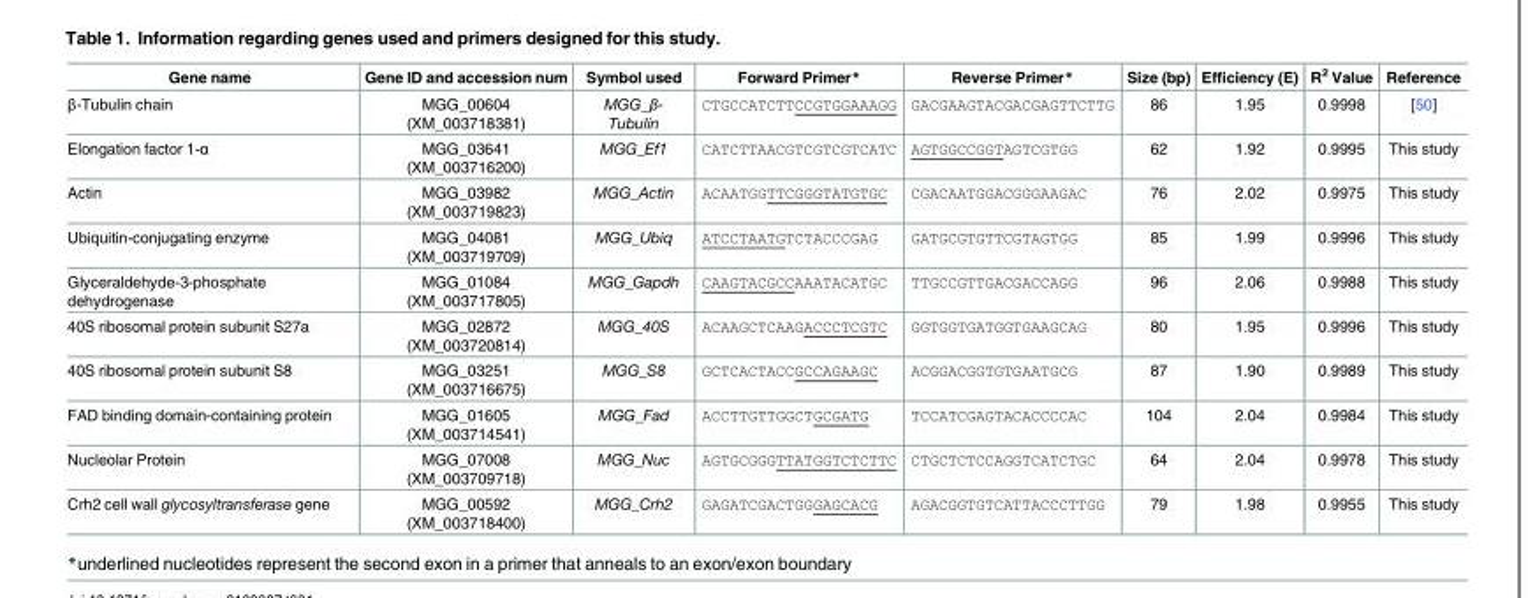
<table><thead><tr><td>Gene name</td><td>Gene ID and accession num</td><td>Symbol used</td><td>Forward Primer*</td><td>Reverse Primer*</td><td>Size (bp)</td><td>Efficiency (E)</td><td>R<sup>2</sup> Value</td><td>Reference</td></tr></thead><tbody><tr><td>β-Tubulin chain</td><td>MGG_00604 (XM_003718381)</td><td>MGG_β- Tubulin</td><td>CTGCCATCTTCCGTGGAAAGG</td><td>GACGAAGTACGACGAGTTCTTG</td><td>86</td><td>1.95</td><td>0.9998</td><td>[50]</td></tr><tr><td>Elongation factor 1-α</td><td>MGG_03641 (XM_003716200)</td><td>MGG_Ef1</td><td>CATCTTAACGTCGTCGTCATC</td><td>AGTGGCCGGTAGTCGTGG</td><td>62</td><td>1.92</td><td>0.9995</td><td>This study</td></tr><tr><td>Actin</td><td>MGG_03982 (XM_003719823)</td><td>MGG_Actin</td><td>ACAATGGTTCGGGTATGTGC</td><td>CGACAATGGACGGGAAGAC</td><td>76</td><td>2.02</td><td>0.9975</td><td>This study</td></tr><tr><td>Ubiquitin-conjugating enzyme</td><td>MGG_04081 (XM_003719709)</td><td>MGG_Ubiq</td><td>ATCCTAATGTCTACCCGAG</td><td>GATGCGTGTTCGTAGTGG</td><td>85</td><td>1.99</td><td>0.9996</td><td>This study</td></tr><tr><td>Glyceraldehyde-3-phosphate dehydrogenase</td><td>MGG_01084 (XM_003717805)</td><td>MGG_Gapdh</td><td>CAAGTACGCCAAATACATGC</td><td>TTGCCGTTGACGACCAGG</td><td>96</td><td>2.06</td><td>0.9988</td><td>This study</td></tr><tr><td>40S ribosomal protein subunit S27a</td><td>MGG_02872 (XM_003720814)</td><td>MGG_40S</td><td>ACAAGCTCAAGACCCTCGTC</td><td>GGTGGTGATGGTGAAGCAG</td><td>80</td><td>1.95</td><td>0.9996</td><td>This study</td></tr><tr><td>40S ribosomal protein subunit S8</td><td>MGG_03251 (XM_003716675)</td><td>MGG_S8</td><td>GCTCACTACCGCCAGAAGC</td><td>ACGGACGGTGTGAATGCG</td><td>87</td><td>1.90</td><td>0.9989</td><td>This study</td></tr><tr><td>FAD binding domain-containing protein</td><td>MGG_01605 (XM_003714541)</td><td>MGG_Fad</td><td>ACCTTGTTGGCTGCGATG</td><td>TCCATCGAGTACACCCCAC</td><td>104</td><td>2.04</td><td>0.9984</td><td>This study</td></tr><tr><td>Nucleolar Protein</td><td>MGG_07008 (XM_003709718)</td><td>MGG_Nuc</td><td>AGTGCGGGTTATGGTCTCTTC</td><td>CTGCTCTCCAGGTCATCTGC</td><td>64</td><td>2.04</td><td>0.9978</td><td>This study</td></tr><tr><td>Crh2 cell wall glycosyltransferase gene</td><td>MGG_00592 (XM_003718400)</td><td>MGG_Crh2</td><td>GAGATCGACTGGGAGCACG</td><td>AGACGGTGTCATTACCCTTGG</td><td>79</td><td>1.98</td><td>0.9955</td><td>This study</td></tr></tbody></table>